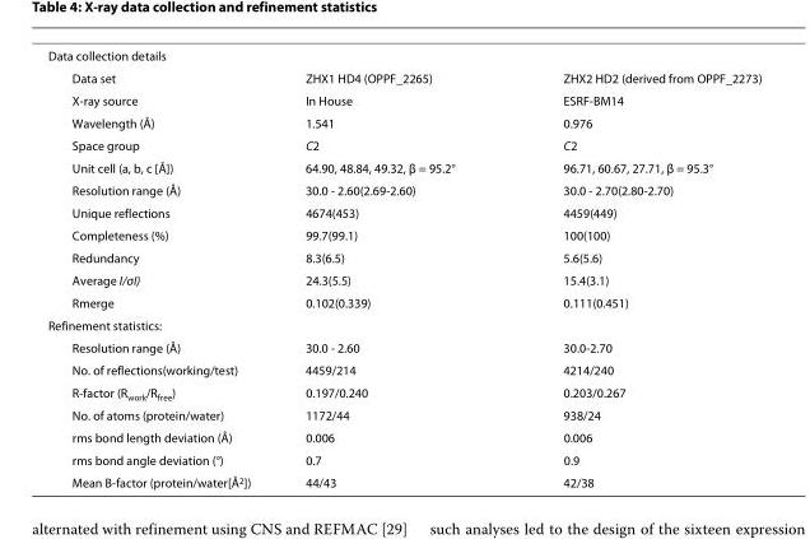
<table><tbody><tr><td colspan="3">Data collection details</td></tr><tr><td>Data set</td><td>ZHX1 HD4 (OPPF_2265)</td><td>ZHX2 HD2 (derived from OPPF_2273)</td></tr><tr><td>X-ray source</td><td>In House</td><td>ESRF-BM14</td></tr><tr><td>Wavelength (Å)</td><td>1.541</td><td>0.976</td></tr><tr><td>Space group</td><td>C2</td><td>C2</td></tr><tr><td>Unit cell (a, b, c [Å])</td><td>64.90, 48.84, 49.32, β = 95.2°</td><td>96.71, 60.67, 27.71, β = 95.3°</td></tr><tr><td>Resolution range (Å)</td><td>30.0 - 2.60(2.69-2.60)</td><td>30.0 - 2.70(2.80-2.70)</td></tr><tr><td>Unique reflections</td><td>4674(453)</td><td>4459(449)</td></tr><tr><td>Completeness (%)</td><td>99.7(99.1)</td><td>100(100)</td></tr><tr><td>Redundancy</td><td>8.3(6.5)</td><td>5.6(5.6)</td></tr><tr><td>Average I/σI)</td><td>24.3(5.5)</td><td>15.4(3.1)</td></tr><tr><td>Rmerge</td><td>0.102(0.339)</td><td>0.111(0.451)</td></tr><tr><td colspan="3">Refinement statistics:</td></tr><tr><td>Resolution range (Å)</td><td>30.0 - 2.60</td><td>30.0-2.70</td></tr><tr><td>No. of reflections(working/test)</td><td>4459/214</td><td>4214/240</td></tr><tr><td>R-factor (R<sub>work</sub>/R<sub>free</sub>)</td><td>0.197/0.240</td><td>0.203/0.267</td></tr><tr><td>No. of atoms (protein/water)</td><td>1172/44</td><td>938/24</td></tr><tr><td>rms bond length deviation (Å)</td><td>0.006</td><td>0.006</td></tr><tr><td>rms bond angle deviation (°)</td><td>0.7</td><td>0.9</td></tr><tr><td>Mean B-factor (protein/water[Å<sup>2</sup>])</td><td>44/43</td><td>42/38</td></tr></tbody></table>